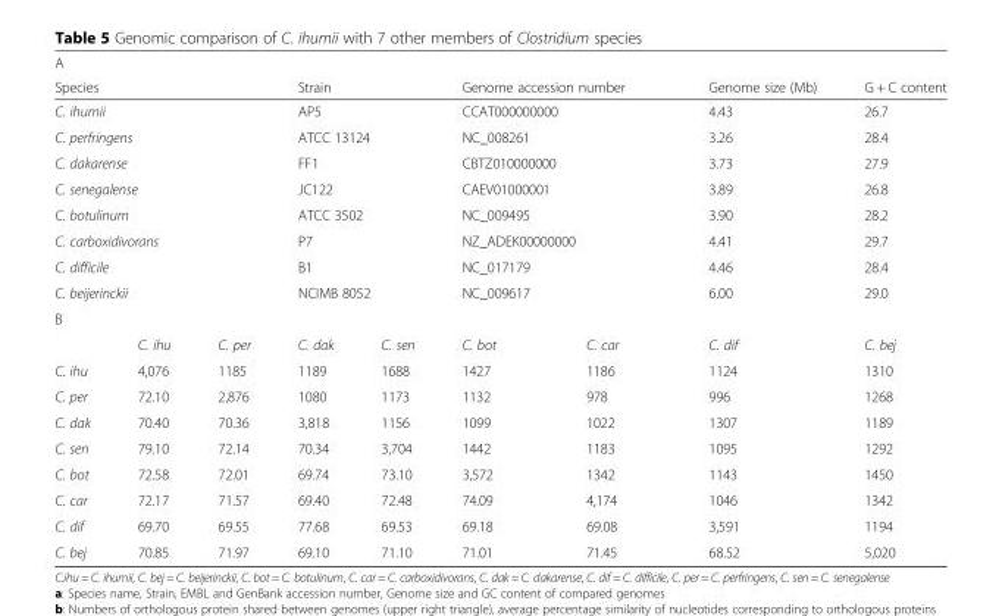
<table><thead><tr><td colspan="9">A</td></tr><tr><td colspan="3">Species</td><td colspan="2">Strain</td><td colspan="2">Genome accession number</td><td>Genome size (Mb)</td><td>G + C content</td></tr></thead><tbody><tr><td colspan="3">C. ihumii</td><td colspan="2">AP5</td><td colspan="2">CCAT000000000</td><td>4.43</td><td>26.7</td></tr><tr><td colspan="3">C. perfringens</td><td colspan="2">ATCC 13124</td><td colspan="2">NC_008261</td><td>3.26</td><td>28.4</td></tr><tr><td colspan="3">C. dakarense</td><td colspan="2">FF1</td><td colspan="2">CBTZ010000000</td><td>3.73</td><td>27.9</td></tr><tr><td colspan="3">C. senegalense</td><td colspan="2">JC122</td><td colspan="2">CAEV01000001</td><td>3.89</td><td>26.8</td></tr><tr><td colspan="3">C. botulinum</td><td colspan="2">ATCC 3502</td><td colspan="2">NC_009495</td><td>3.90</td><td>28.2</td></tr><tr><td colspan="3">C. carboxidivorans</td><td colspan="2">P7</td><td colspan="2">NZ_ADEK00000000</td><td>4.41</td><td>29.7</td></tr><tr><td colspan="3">C. difficile</td><td colspan="2">B1</td><td colspan="2">NC_017179</td><td>4.46</td><td>28.4</td></tr><tr><td colspan="3">C. beijerinckii</td><td colspan="2">NCIMB 8052</td><td colspan="2">NC_009617</td><td>6.00</td><td>29.0</td></tr><tr><td colspan="9">B</td></tr><tr><td></td><td>C. ihu</td><td>C. per</td><td>C. dak</td><td>C. sen</td><td>C. bot</td><td>C. car</td><td>C. dif</td><td>C. bej</td></tr><tr><td>C. ihu</td><td>4,076</td><td>1185</td><td>1189</td><td>1688</td><td>1427</td><td>1186</td><td>1124</td><td>1310</td></tr><tr><td>C. per</td><td>72.10</td><td>2,876</td><td>1080</td><td>1173</td><td>1132</td><td>978</td><td>996</td><td>1268</td></tr><tr><td>C. dak</td><td>70.40</td><td>70.36</td><td>3,818</td><td>1156</td><td>1099</td><td>1022</td><td>1307</td><td>1189</td></tr><tr><td>C. sen</td><td>79.10</td><td>72.14</td><td>70.34</td><td>3,704</td><td>1442</td><td>1183</td><td>1095</td><td>1292</td></tr><tr><td>C. bot</td><td>72.58</td><td>72.01</td><td>69.74</td><td>73.10</td><td>3,572</td><td>1342</td><td>1143</td><td>1450</td></tr><tr><td>C. car</td><td>72.17</td><td>71.57</td><td>69.40</td><td>72.48</td><td>74.09</td><td>4,174</td><td>1046</td><td>1342</td></tr><tr><td>C. dif</td><td>69.70</td><td>69.55</td><td>77.68</td><td>69.53</td><td>69.18</td><td>69.08</td><td>3,591</td><td>1194</td></tr><tr><td>C. bej</td><td>70.85</td><td>71.97</td><td>69.10</td><td>71.10</td><td>71.01</td><td>71.45</td><td>68.52</td><td>5,020</td></tr></tbody></table>